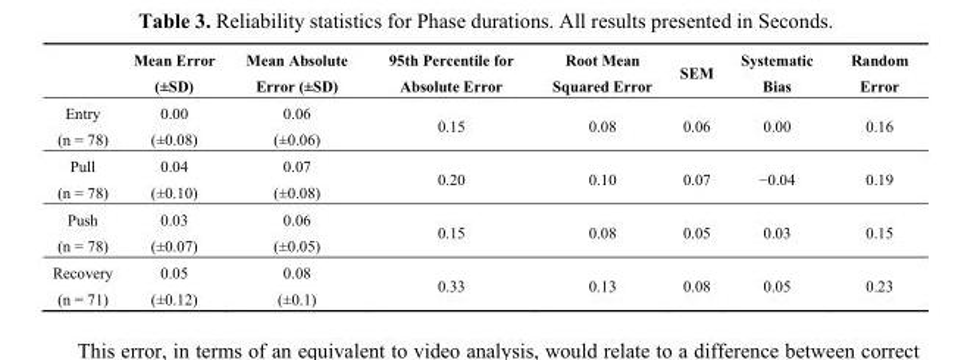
<table><thead><tr><td></td><td>Mean Error (±SD)</td><td>Mean Absolute Error (±SD)</td><td>95th Percentile for Absolute Error</td><td>Root Mean Squared Error</td><td>SEM</td><td>Systematic Bias</td><td>Random Error</td></tr></thead><tbody><tr><td>Entry (n = 78)</td><td>0.00 (±0.08)</td><td>0.06 (±0.06)</td><td>0.15</td><td>0.08</td><td>0.06</td><td>0.00</td><td>0.16</td></tr><tr><td>Pull (n = 78)</td><td>0.04 (±0.10)</td><td>0.07 (±0.08)</td><td>0.20</td><td>0.10</td><td>0.07</td><td>−0.04</td><td>0.19</td></tr><tr><td>Push (n = 78)</td><td>0.03 (±0.07)</td><td>0.06 (±0.05)</td><td>0.15</td><td>0.08</td><td>0.05</td><td>0.03</td><td>0.15</td></tr><tr><td>Recovery (n = 71)</td><td>0.05 (±0.12)</td><td>0.08 (±0.1)</td><td>0.33</td><td>0.13</td><td>0.08</td><td>0.05</td><td>0.23</td></tr></tbody></table>